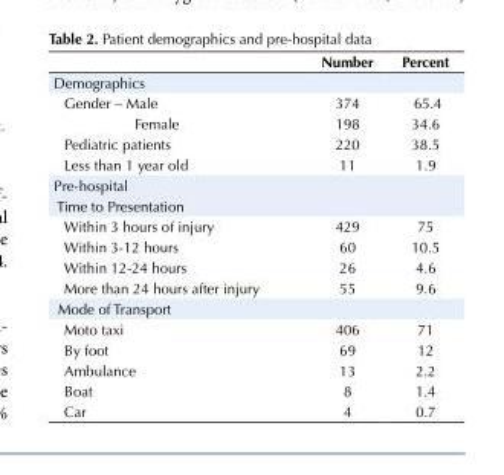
<table><thead><tr><td></td><td>Number</td><td>Percent</td></tr></thead><tbody><tr><td colspan="3">Demographics</td></tr><tr><td>Gender – Male</td><td>374</td><td>65.4</td></tr><tr><td>Female</td><td>198</td><td>34.6</td></tr><tr><td>Pediatric patients</td><td>220</td><td>38.5</td></tr><tr><td>Less than 1 year old</td><td>11</td><td>1.9</td></tr><tr><td colspan="3">Pre-hospital</td></tr><tr><td colspan="3">Time to Presentation</td></tr><tr><td>Within 3 hours of injury</td><td>429</td><td>75</td></tr><tr><td>Within 3-12 hours</td><td>60</td><td>10.5</td></tr><tr><td>Within 12-24 hours</td><td>26</td><td>4.6</td></tr><tr><td>More than 24 hours after injury</td><td>55</td><td>9.6</td></tr><tr><td colspan="3">Mode of Transport</td></tr><tr><td>Moto taxi</td><td>406</td><td>71</td></tr><tr><td>By foot</td><td>69</td><td>12</td></tr><tr><td>Ambulance</td><td>13</td><td>2.2</td></tr><tr><td>Boat</td><td>8</td><td>1.4</td></tr><tr><td>Car</td><td>4</td><td>0.7</td></tr></tbody></table>